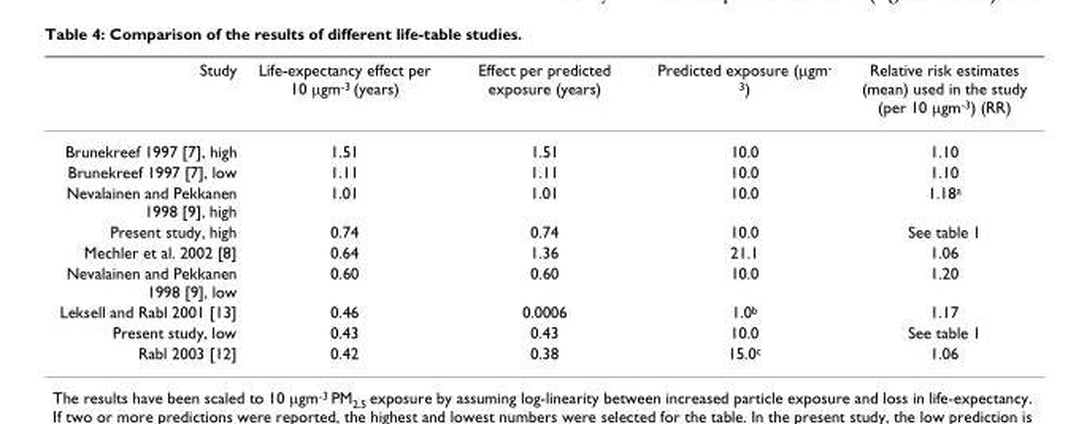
<table><thead><tr><td>Study</td><td>Life-expectancy effect per 10 µgm<sup>-3</sup> (years)</td><td>Effect per predicted exposure (years)</td><td>Predicted exposure (µgm<sup>- 3</sup>)</td><td>Relative risk estimates (mean) used in the study (per 10 µgm<sup>-3</sup>) (RR)</td></tr></thead><tbody><tr><td>Brunekreef 1997 [7], high</td><td>1.51</td><td>1.51</td><td>10.0</td><td>1.10</td></tr><tr><td>Brunekreef 1997 [7], low</td><td>1.11</td><td>1.11</td><td>10.0</td><td>1.10</td></tr><tr><td>Nevalainen and Pekkanen 1998 [9], high</td><td>1.01</td><td>1.01</td><td>10.0</td><td>1.18<sup>a</sup></td></tr><tr><td>Present study, high</td><td>0.74</td><td>0.74</td><td>10.0</td><td>See table 1</td></tr><tr><td>Mechler et al. 2002 [8]</td><td>0.64</td><td>1.36</td><td>21.1</td><td>1.06</td></tr><tr><td>Nevalainen and Pekkanen 1998 [9], low</td><td>0.60</td><td>0.60</td><td>10.0</td><td>1.20</td></tr><tr><td>Leksell and Rabl 2001 [13]</td><td>0.46</td><td>0.0006</td><td>1.0<sup>b</sup></td><td>1.17</td></tr><tr><td>Present study, low</td><td>0.43</td><td>0.43</td><td>10.0</td><td>See table 1</td></tr><tr><td>Rabl 2003 [12]</td><td>0.42</td><td>0.38</td><td>15.0<sup>c</sup></td><td>1.06</td></tr></tbody></table>